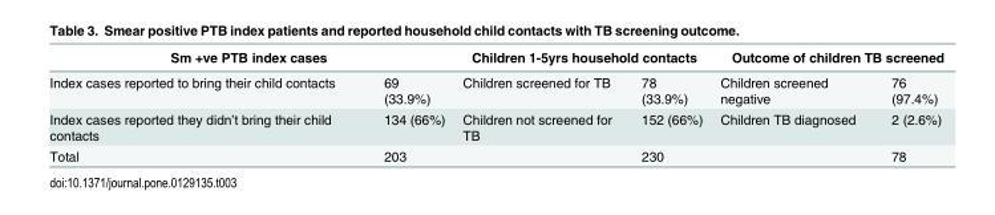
<table><thead><tr><td colspan="2">Sm +ve PTB index cases</td><td colspan="2">Children 1-5yrs household contacts</td><td colspan="2">Outcome of children TB screened</td></tr><tr><td>Index cases reported to bring their child contacts</td><td>69 (33.9%)</td><td>Children screened for TB</td><td>78 (33.9%)</td><td>Children screened negative</td><td>76 (97.4%)</td></tr></thead><tbody><tr><td>Index cases reported they didn’t bring their child contacts</td><td>134 (66%)</td><td>Children not screened for TB</td><td>152 (66%)</td><td>Children TB diagnosed</td><td>2 (2.6%)</td></tr><tr><td>Total</td><td>203</td><td></td><td>230</td><td></td><td>78</td></tr></tbody></table>